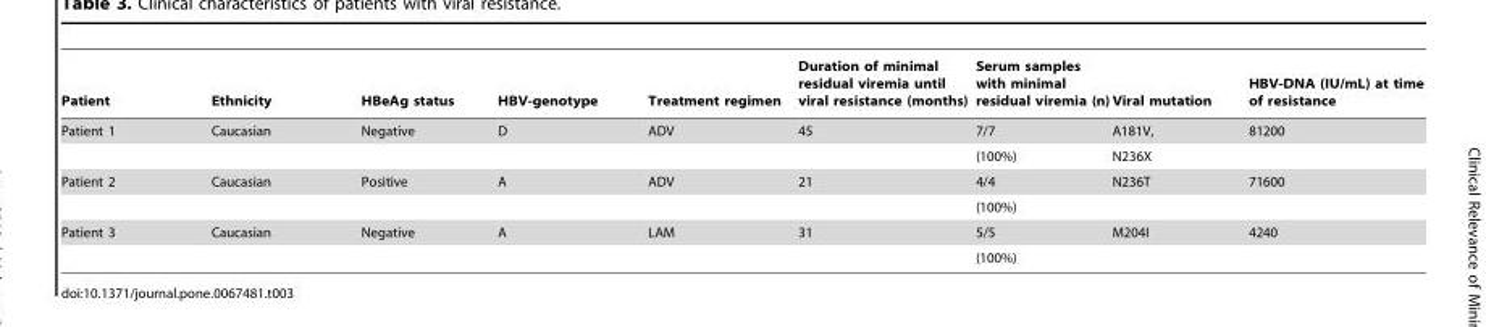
<table><thead><tr><td>Patient</td><td>Ethnicity</td><td>HBeAg status</td><td>HBV-genotype</td><td>Treatment regimen</td><td>Duration of minimal residual viremia until viral resistance (months)</td><td>Serum samples with minimal residual viremia (n)</td><td>Viral mutation</td><td>HBV-DNA (IU/mL) at time of resistance</td></tr></thead><tbody><tr><td rowspan="2">Patient 1</td><td>Caucasian</td><td>Negative</td><td>D</td><td>ADV</td><td>45</td><td>7/7</td><td>A181V,</td><td>81200</td></tr><tr><td></td><td></td><td></td><td></td><td></td><td>(100%)</td><td>N236X</td><td></td></tr><tr><td rowspan="2">Patient 2</td><td>Caucasian</td><td>Positive</td><td>A</td><td>ADV</td><td>21</td><td>4/4</td><td>N236T</td><td>71600</td></tr><tr><td></td><td></td><td></td><td></td><td></td><td>(100%)</td><td></td><td></td></tr><tr><td rowspan="2">Patient 3</td><td>Caucasian</td><td>Negative</td><td>A</td><td>LAM</td><td>31</td><td>5/5</td><td>M204I</td><td>4240</td></tr><tr><td></td><td></td><td></td><td></td><td></td><td>(100%)</td><td></td><td></td></tr></tbody></table>